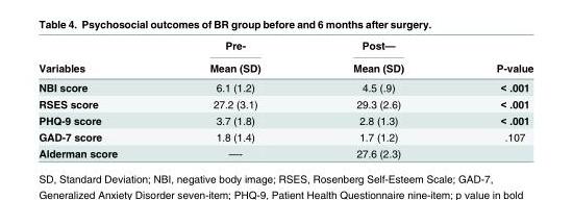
<table><thead><tr><td rowspan="2">Variables</td><td rowspan="2">Pre- Mean (SD)</td><td rowspan="2">Post— Mean (SD)</td><td rowspan="2">P-value</td></tr><tr></tr></thead><tbody><tr><td>NBI score</td><td>6.1 (1.2)</td><td>4.5 (.9)</td><td>&lt; .001</td></tr><tr><td>RSES score</td><td>27.2 (3.1)</td><td>29.3 (2.6)</td><td>&lt; .001</td></tr><tr><td>PHQ-9 score</td><td>3.7 (1.8)</td><td>2.8 (1.3)</td><td>&lt; .001</td></tr><tr><td>GAD-7 score</td><td>1.8 (1.4)</td><td>1.7 (1.2)</td><td>.107</td></tr><tr><td>Alderman score</td><td>—-</td><td>27.6 (2.3)</td><td></td></tr></tbody></table>